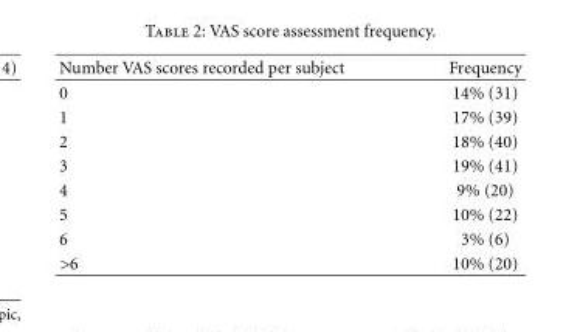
<table><thead><tr><td>Number VAS scores recorded per subject</td><td>Frequency</td></tr></thead><tbody><tr><td>0</td><td>14% (31)</td></tr><tr><td>1</td><td>17% (39)</td></tr><tr><td>2</td><td>18% (40)</td></tr><tr><td>3</td><td>19% (41)</td></tr><tr><td>4</td><td>9% (20)</td></tr><tr><td>5</td><td>10% (22)</td></tr><tr><td>6</td><td>3% (6)</td></tr><tr><td>&gt;6</td><td>10% (20)</td></tr></tbody></table>